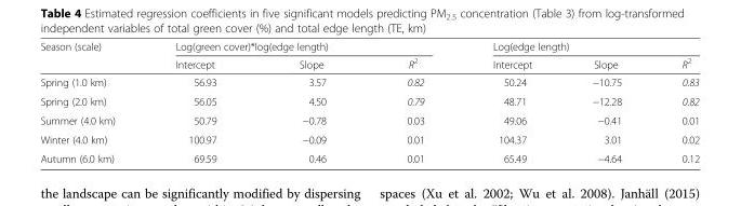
<table><thead><tr><td rowspan="2">Season (scale)</td><td colspan="3">Log(green cover)*log(edge length)</td><td colspan="3">Log(edge length)</td></tr><tr><td>Intercept</td><td>Slope</td><td>R<sup>2</sup></td><td>Intercept</td><td>Slope</td><td>R<sup>2</sup></td></tr></thead><tbody><tr><td>Spring (1.0 km)</td><td>56.93</td><td>3.57</td><td>0.82</td><td>50.24</td><td>−10.75</td><td>0.83</td></tr><tr><td>Spring (2.0 km)</td><td>56.05</td><td>4.50</td><td>0.79</td><td>48.71</td><td>−12.28</td><td>0.82</td></tr><tr><td>Summer (4.0 km)</td><td>50.79</td><td>−0.78</td><td>0.03</td><td>49.06</td><td>−0.41</td><td>0.01</td></tr><tr><td>Winter (4.0 km)</td><td>100.97</td><td>−0.09</td><td>0.01</td><td>104.37</td><td>3.01</td><td>0.02</td></tr><tr><td>Autumn (6.0 km)</td><td>69.59</td><td>0.46</td><td>0.01</td><td>65.49</td><td>−4.64</td><td>0.12</td></tr></tbody></table>